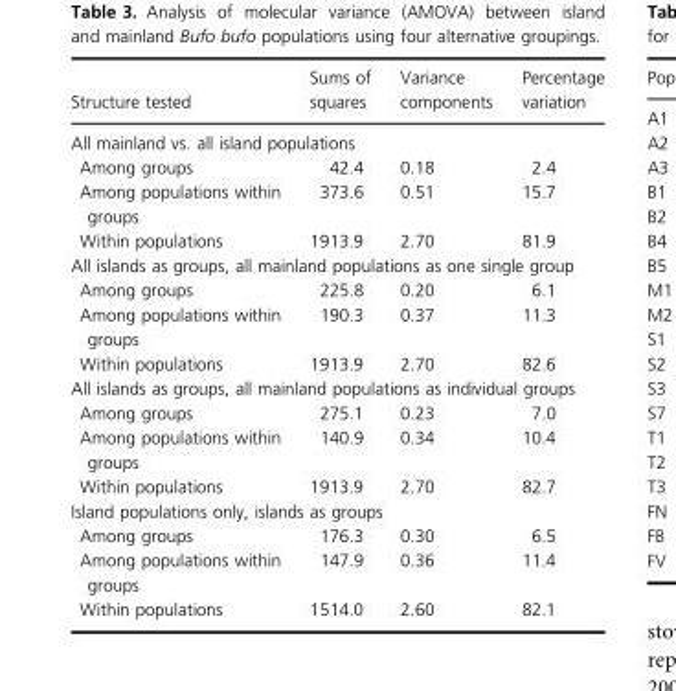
<table><thead><tr><td>Structure tested</td><td>Sums of squares</td><td>Variance components</td><td>Percentage variation</td></tr></thead><tbody><tr><td colspan="4">All mainland vs. all island populations</td></tr><tr><td>Among groups</td><td>42.4</td><td>0.18</td><td>2.4</td></tr><tr><td>Among populations within groups</td><td>373.6</td><td>0.51</td><td>15.7</td></tr><tr><td>Within populations</td><td>1913.9</td><td>2.70</td><td>81.9</td></tr><tr><td colspan="4">All islands as groups, all mainland populations as one single group</td></tr><tr><td>Among groups</td><td>225.8</td><td>0.20</td><td>6.1</td></tr><tr><td>Among populations within groups</td><td>190.3</td><td>0.37</td><td>11.3</td></tr><tr><td>Within populations</td><td>1913.9</td><td>2.70</td><td>82.6</td></tr><tr><td colspan="4">All islands as groups, all mainland populations as individual groups</td></tr><tr><td>Among groups</td><td>275.1</td><td>0.23</td><td>7.0</td></tr><tr><td>Among populations within groups</td><td>140.9</td><td>0.34</td><td>10.4</td></tr><tr><td>Within populations</td><td>1913.9</td><td>2.70</td><td>82.7</td></tr><tr><td colspan="4">Island populations only, islands as groups</td></tr><tr><td>Among groups</td><td>176.3</td><td>0.30</td><td>6.5</td></tr><tr><td>Among populations within groups</td><td>147.9</td><td>0.36</td><td>11.4</td></tr><tr><td>Within populations</td><td>1514.0</td><td>2.60</td><td>82.1</td></tr></tbody></table>